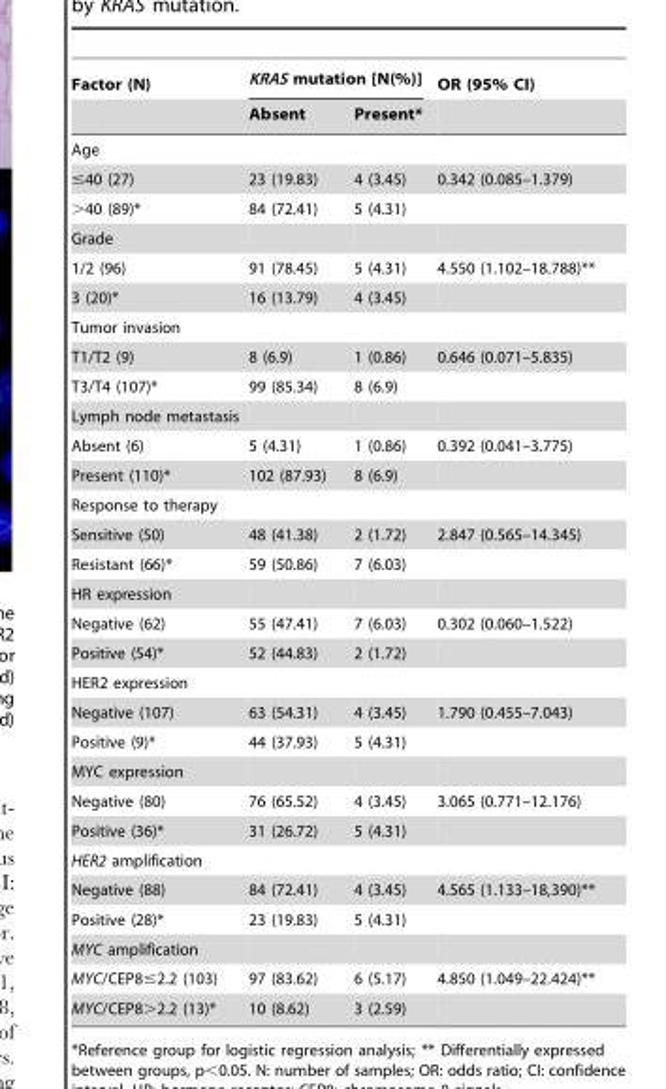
<table><thead><tr><td rowspan="2">Factor (N)</td><td colspan="2">KRAS mutation [N(%)]</td><td rowspan="2">OR (95% CI)</td></tr><tr><td>Absent</td><td>Present*</td></tr></thead><tbody><tr><td colspan="4">Age</td></tr><tr><td>≤40 (27)</td><td>23 (19.83)</td><td>4 (3.45)</td><td>0.342 (0.085–1.379)</td></tr><tr><td>&gt;40 (89)*</td><td>84 (72.41)</td><td>5 (4.31)</td><td></td></tr><tr><td colspan="4">Grade</td></tr><tr><td>1/2 (96)</td><td>91 (78.45)</td><td>5 (4.31)</td><td>4.550 (1.102–18.788)**</td></tr><tr><td>3 (20)*</td><td>16 (13.79)</td><td>4 (3.45)</td><td></td></tr><tr><td colspan="4">Tumor invasion</td></tr><tr><td>T1/T2 (9)</td><td>8 (6.9)</td><td>1 (0.86)</td><td>0.646 (0.071–5.835)</td></tr><tr><td>T3/T4 (107)*</td><td>99 (85.34)</td><td>8 (6.9)</td><td></td></tr><tr><td colspan="4">Lymph node metastasis</td></tr><tr><td>Absent (6)</td><td>5 (4.31)</td><td>1 (0.86)</td><td>0.392 (0.041–3.775)</td></tr><tr><td>Present (110)*</td><td>102 (87.93)</td><td>8 (6.9)</td><td></td></tr><tr><td colspan="4">Response to therapy</td></tr><tr><td>Sensitive (50)</td><td>48 (41.38)</td><td>2 (1.72)</td><td>2.847 (0.565–14.345)</td></tr><tr><td>Resistant (66)*</td><td>59 (50.86)</td><td>7 (6.03)</td><td></td></tr><tr><td colspan="4">HR expression</td></tr><tr><td>Negative (62)</td><td>55 (47.41)</td><td>7 (6.03)</td><td>0.302 (0.060–1.522)</td></tr><tr><td>Positive (54)*</td><td>52 (44.83)</td><td>2 (1.72)</td><td></td></tr><tr><td colspan="4">HER2 expression</td></tr><tr><td>Negative (107)</td><td>63 (54.31)</td><td>4 (3.45)</td><td>1.790 (0.455–7.043)</td></tr><tr><td>Positive (9)*</td><td>44 (37.93)</td><td>5 (4.31)</td><td></td></tr><tr><td colspan="4">MYC expression</td></tr><tr><td>Negative (80)</td><td>76 (65.52)</td><td>4 (3.45)</td><td>3.065 (0.771–12.176)</td></tr><tr><td>Positive (36)*</td><td>31 (26.72)</td><td>5 (4.31)</td><td></td></tr><tr><td colspan="4">HER2 amplification</td></tr><tr><td>Negative (88)</td><td>84 (72.41)</td><td>4 (3.45)</td><td>4.565 (1.133–18,390)**</td></tr><tr><td>Positive (28)*</td><td>23 (19.83)</td><td>5 (4.31)</td><td></td></tr><tr><td colspan="4">MYC amplification</td></tr><tr><td>MYC/CEP8≤2.2 (103)</td><td>97 (83.62)</td><td>6 (5.17)</td><td>4.850 (1.049–22.424)**</td></tr><tr><td>MYC/CEP8&gt;2.2 (13)*</td><td>10 (8.62)</td><td>3 (2.59)</td><td></td></tr></tbody></table>